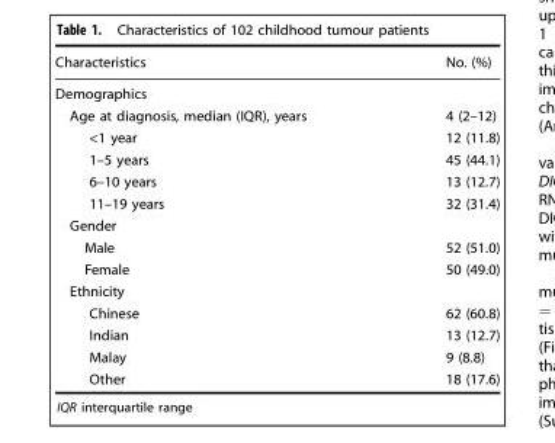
<table><thead><tr><td>Characteristics</td><td>No. (%)</td></tr></thead><tbody><tr><td colspan="2">Demographics</td></tr><tr><td>Age at diagnosis, median (IQR), years</td><td>4 (2–12)</td></tr><tr><td>&lt;1 year</td><td>12 (11.8)</td></tr><tr><td>1–5 years</td><td>45 (44.1)</td></tr><tr><td>6–10 years</td><td>13 (12.7)</td></tr><tr><td>11–19 years</td><td>32 (31.4)</td></tr><tr><td colspan="2">Gender</td></tr><tr><td>Male</td><td>52 (51.0)</td></tr><tr><td>Female</td><td>50 (49.0)</td></tr><tr><td colspan="2">Ethnicity</td></tr><tr><td>Chinese</td><td>62 (60.8)</td></tr><tr><td>Indian</td><td>13 (12.7)</td></tr><tr><td>Malay</td><td>9 (8.8)</td></tr><tr><td>Other</td><td>18 (17.6)</td></tr></tbody></table>